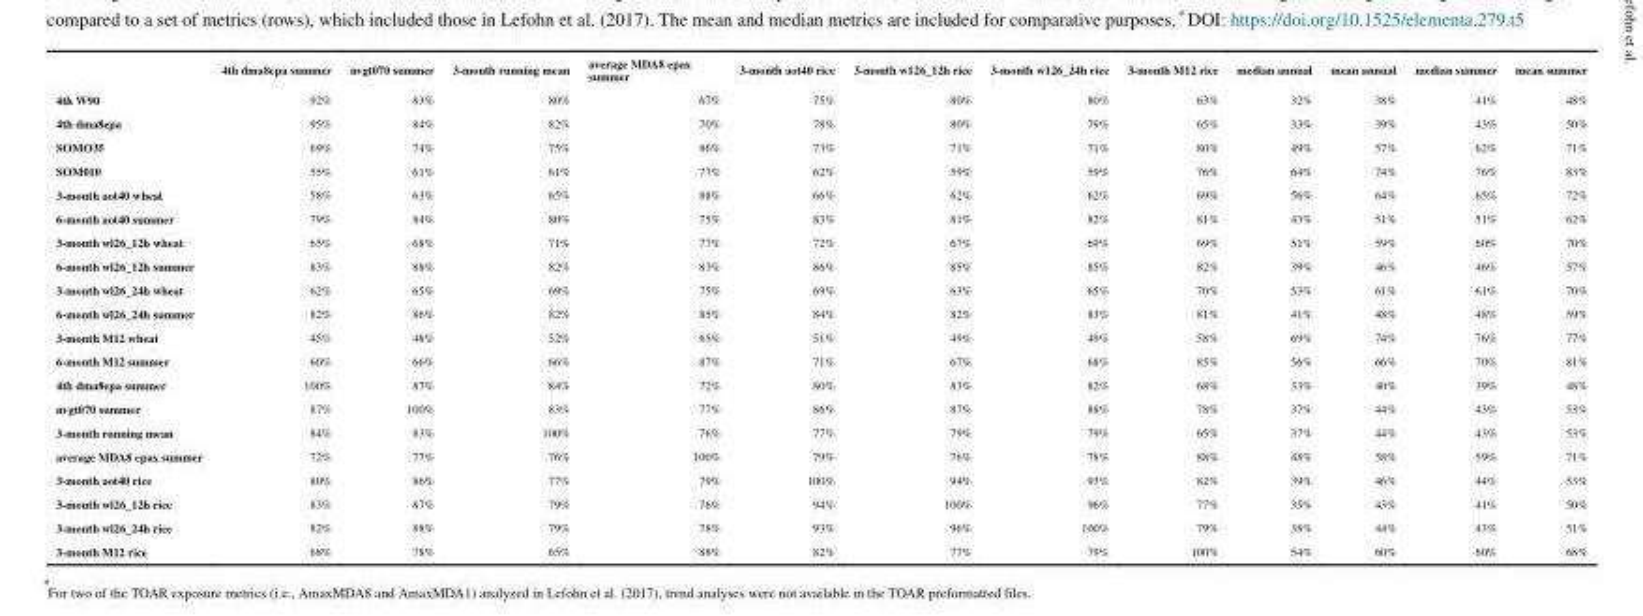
<table><thead><tr><td></td><td>4th dma8epa summer</td><td>nvgt070 summer</td><td>3-month running mean</td><td>average MDA8 epax summer</td><td>3-month aot40 rice</td><td>3-month w126_12h rice</td><td>3-month w126_24h rice</td><td>3-month M12 rice</td><td>median annual</td><td>mean annual</td><td>median summer</td><td>mean summer</td></tr></thead><tbody><tr><td>4th W90</td><td>92%</td><td>83%</td><td>80%</td><td>67%</td><td>75%</td><td>80%</td><td>80%</td><td>63%</td><td>32%</td><td>38%</td><td>41%</td><td>48%</td></tr><tr><td>4th dma8epa</td><td>95%</td><td>84%</td><td>82%</td><td>70%</td><td>78%</td><td>80%</td><td>79%</td><td>65%</td><td>33%</td><td>39%</td><td>43%</td><td>50%</td></tr><tr><td>SOMO35</td><td>69%</td><td>74%</td><td>75%</td><td>86%</td><td>73%</td><td>71%</td><td>71%</td><td>80%</td><td>49%</td><td>57%</td><td>62%</td><td>71%</td></tr><tr><td>SOM010</td><td>55%</td><td>61%</td><td>61%</td><td>77%</td><td>62%</td><td>59%</td><td>59%</td><td>76%</td><td>64%</td><td>74%</td><td>76%</td><td>83%</td></tr><tr><td>3-month aot40 wheat</td><td>58%</td><td>63%</td><td>65%</td><td>88%</td><td>66%</td><td>62%</td><td>62%</td><td>69%</td><td>56%</td><td>64%</td><td>65%</td><td>72%</td></tr><tr><td>6-month aot40 summer</td><td>79%</td><td>84%</td><td>80%</td><td>75%</td><td>83%</td><td>81%</td><td>82%</td><td>81%</td><td>43%</td><td>51%</td><td>51%</td><td>62%</td></tr><tr><td>3-month wl26_12h wheat</td><td>65%</td><td>68%</td><td>71%</td><td>77%</td><td>72%</td><td>67%</td><td>69%</td><td>69%</td><td>51%</td><td>59%</td><td>60%</td><td>70%</td></tr><tr><td>6-month wl26_12h summer</td><td>83%</td><td>88%</td><td>82%</td><td>83%</td><td>86%</td><td>85%</td><td>85%</td><td>82%</td><td>39%</td><td>46%</td><td>46%</td><td>57%</td></tr><tr><td>3-month wl26_24h wheat</td><td>62%</td><td>65%</td><td>69%</td><td>75%</td><td>69%</td><td>63%</td><td>65%</td><td>70%</td><td>53%</td><td>61%</td><td>61%</td><td>70%</td></tr><tr><td>6-month wl26_24h summer</td><td>82%</td><td>86%</td><td>82%</td><td>85%</td><td>84%</td><td>82%</td><td>83%</td><td>81%</td><td>41%</td><td>48%</td><td>48%</td><td>59%</td></tr><tr><td>3-month M12 wheat</td><td>45%</td><td>48%</td><td>52%</td><td>65%</td><td>51%</td><td>49%</td><td>49%</td><td>58%</td><td>69%</td><td>74%</td><td>76%</td><td>77%</td></tr><tr><td>6-month M12 summer</td><td>60%</td><td>66%</td><td>66%</td><td>87%</td><td>71%</td><td>67%</td><td>68%</td><td>85%</td><td>56%</td><td>66%</td><td>70%</td><td>81%</td></tr><tr><td>4th dma8epa summer</td><td>100%</td><td>87%</td><td>84%</td><td>72%</td><td>80%</td><td>83%</td><td>82%</td><td>68%</td><td>33%</td><td>40%</td><td>39%</td><td>48%</td></tr><tr><td>nvgt070 summer</td><td>87%</td><td>100%</td><td>83%</td><td>77%</td><td>86%</td><td>87%</td><td>88%</td><td>78%</td><td>37%</td><td>44%</td><td>43%</td><td>53%</td></tr><tr><td>3-month running mean</td><td>84%</td><td>83%</td><td>100%</td><td>76%</td><td>77%</td><td>79%</td><td>79%</td><td>65%</td><td>37%</td><td>44%</td><td>43%</td><td>53%</td></tr><tr><td>average MDA8 epax summer</td><td>72%</td><td>77%</td><td>76%</td><td>100%</td><td>79%</td><td>76%</td><td>78%</td><td>88%</td><td>48%</td><td>58%</td><td>59%</td><td>71%</td></tr><tr><td>3-month aot40 rice</td><td>80%</td><td>86%</td><td>77%</td><td>79%</td><td>100%</td><td>94%</td><td>93%</td><td>82%</td><td>39%</td><td>46%</td><td>44%</td><td>53%</td></tr><tr><td>3-month wl26_12h rice</td><td>83%</td><td>87%</td><td>79%</td><td>76%</td><td>94%</td><td>100%</td><td>96%</td><td>77%</td><td>35%</td><td>43%</td><td>41%</td><td>50%</td></tr><tr><td>3-month wl26_24h rice</td><td>82%</td><td>88%</td><td>79%</td><td>78%</td><td>93%</td><td>96%</td><td>100%</td><td>79%</td><td>38%</td><td>44%</td><td>43%</td><td>51%</td></tr><tr><td>3-month M12 rice</td><td>68%</td><td>78%</td><td>65%</td><td>88%</td><td>82%</td><td>77%</td><td>79%</td><td>100%</td><td>54%</td><td>60%</td><td>60%</td><td>68%</td></tr></tbody></table>